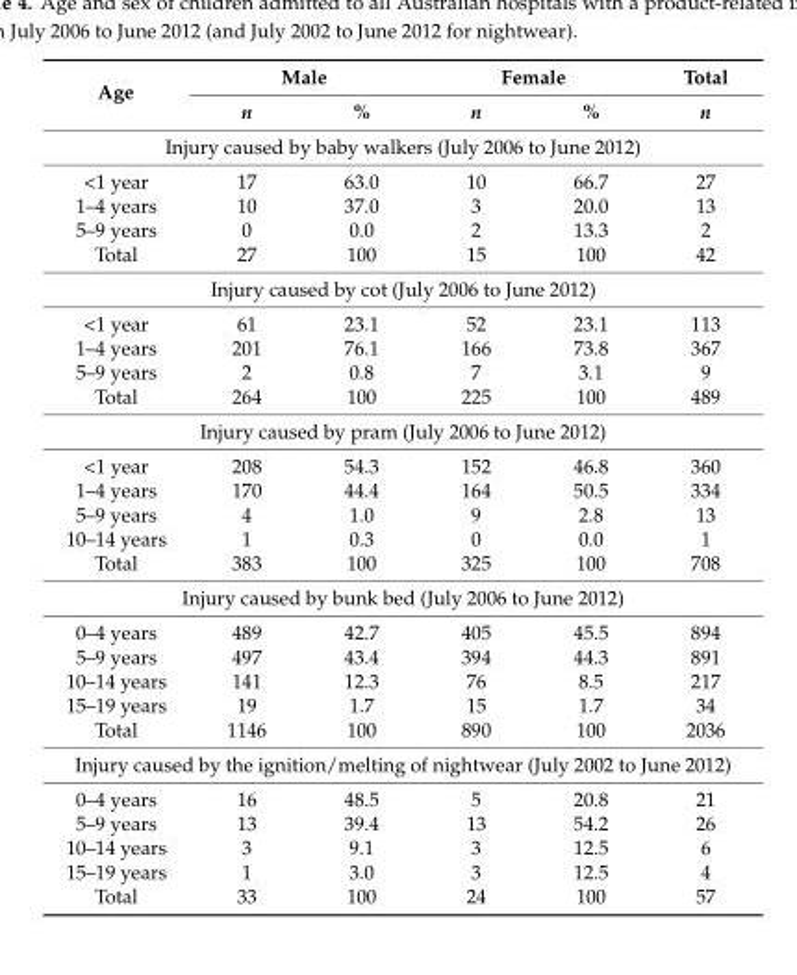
<table><thead><tr><td rowspan="2">Age</td><td colspan="2">Male</td><td colspan="2">Female</td><td rowspan="2">Total n</td></tr><tr><td>n</td><td>%</td><td>n</td><td>%</td></tr></thead><tbody><tr><td colspan="6">Injury caused by baby walkers (July 2006 to June 2012)</td></tr><tr><td>&lt;1 year</td><td>17</td><td>63.0</td><td>10</td><td>66.7</td><td>27</td></tr><tr><td>1–4 years</td><td>10</td><td>37.0</td><td>3</td><td>20.0</td><td>13</td></tr><tr><td>5–9 years</td><td>0</td><td>0.0</td><td>2</td><td>13.3</td><td>2</td></tr><tr><td>Total</td><td>27</td><td>100</td><td>15</td><td>100</td><td>42</td></tr><tr><td colspan="6">Injury caused by cot (July 2006 to June 2012)</td></tr><tr><td>&lt;1 year</td><td>61</td><td>23.1</td><td>52</td><td>23.1</td><td>113</td></tr><tr><td>1–4 years</td><td>201</td><td>76.1</td><td>166</td><td>73.8</td><td>367</td></tr><tr><td>5–9 years</td><td>2</td><td>0.8</td><td>7</td><td>3.1</td><td>9</td></tr><tr><td>Total</td><td>264</td><td>100</td><td>225</td><td>100</td><td>489</td></tr><tr><td colspan="6">Injury caused by pram (July 2006 to June 2012)</td></tr><tr><td>&lt;1 year</td><td>208</td><td>54.3</td><td>152</td><td>46.8</td><td>360</td></tr><tr><td>1–4 years</td><td>170</td><td>44.4</td><td>164</td><td>50.5</td><td>334</td></tr><tr><td>5–9 years</td><td>4</td><td>1.0</td><td>9</td><td>2.8</td><td>13</td></tr><tr><td>10–14 years</td><td>1</td><td>0.3</td><td>0</td><td>0.0</td><td>1</td></tr><tr><td>Total</td><td>383</td><td>100</td><td>325</td><td>100</td><td>708</td></tr><tr><td colspan="6">Injury caused by bunk bed (July 2006 to June 2012)</td></tr><tr><td>0–4 years</td><td>489</td><td>42.7</td><td>405</td><td>45.5</td><td>894</td></tr><tr><td>5–9 years</td><td>497</td><td>43.4</td><td>394</td><td>44.3</td><td>891</td></tr><tr><td>10–14 years</td><td>141</td><td>12.3</td><td>76</td><td>8.5</td><td>217</td></tr><tr><td>15–19 years</td><td>19</td><td>1.7</td><td>15</td><td>1.7</td><td>34</td></tr><tr><td>Total</td><td>1146</td><td>100</td><td>890</td><td>100</td><td>2036</td></tr><tr><td colspan="6">Injury caused by the ignition/melting of nightwear (July 2002 to June 2012)</td></tr><tr><td>0–4 years</td><td>16</td><td>48.5</td><td>5</td><td>20.8</td><td>21</td></tr><tr><td>5–9 years</td><td>13</td><td>39.4</td><td>13</td><td>54.2</td><td>26</td></tr><tr><td>10–14 years</td><td>3</td><td>9.1</td><td>3</td><td>12.5</td><td>6</td></tr><tr><td>15–19 years</td><td>1</td><td>3.0</td><td>3</td><td>12.5</td><td>4</td></tr><tr><td>Total</td><td>33</td><td>100</td><td>24</td><td>100</td><td>57</td></tr></tbody></table>